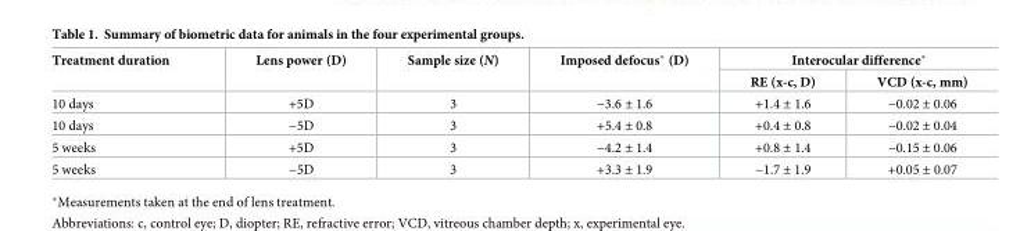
<table><thead><tr><td rowspan="2">Treatment duration</td><td rowspan="2">Lens power (D)</td><td rowspan="2">Sample size (N)</td><td rowspan="2">Imposed defocus* (D)</td><td colspan="2">Interocular difference*</td></tr><tr><td>RE (x-c, D)</td><td>VCD (x-c, mm)</td></tr></thead><tbody><tr><td>10 days</td><td>+5D</td><td>3</td><td>−3.6 ± 1.6</td><td>+1.4 ± 1.6</td><td>−0.02 ± 0.06</td></tr><tr><td>10 days</td><td>−5D</td><td>3</td><td>+5.4 ± 0.8</td><td>+0.4 ± 0.8</td><td>−0.02 ± 0.04</td></tr><tr><td>5 weeks</td><td>+5D</td><td>3</td><td>−4.2 ± 1.4</td><td>+0.8 ± 1.4</td><td>−0.15 ± 0.06</td></tr><tr><td>5 weeks</td><td>−5D</td><td>3</td><td>+3.3 ± 1.9</td><td>−1.7 ± 1.9</td><td>+0.05 ± 0.07</td></tr></tbody></table>